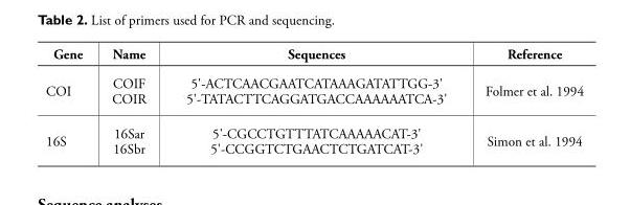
<table><thead><tr><td>Gene</td><td>Name</td><td>Sequences</td><td>Reference</td></tr></thead><tbody><tr><td>COI</td><td>COIF COIR</td><td>5&#x27;-ACTCAACGAATCATAAAGATATTGG-3&#x27; 5&#x27;-TATACTTCAGGATGACCAAAAAATCA-3&#x27;</td><td>Folmer et al. 1994</td></tr><tr><td>16S</td><td>16Sar 16Sbr</td><td>5&#x27;-CGCCTGTTTATCAAAAACAT-3&#x27; 5&#x27;-CCGGTCTGAACTCTGATCAT-3&#x27;</td><td>Simon et al. 1994</td></tr></tbody></table>